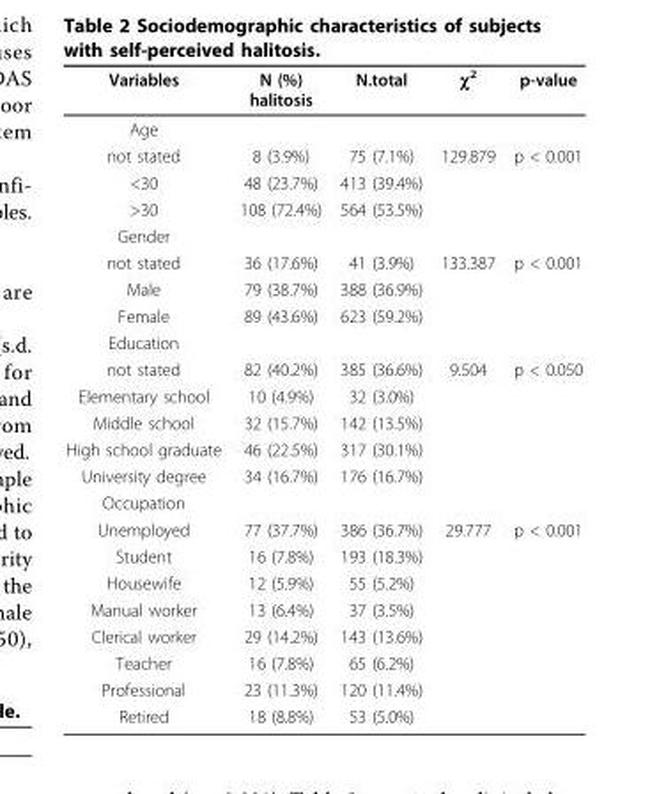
<table><thead><tr><td>Variables</td><td>N (%) halitosis</td><td>N.total</td><td>χ<sup>2</sup></td><td>p-value</td></tr></thead><tbody><tr><td colspan="5">Age</td></tr><tr><td>not stated</td><td>8 (3.9%)</td><td>75 (7.1%)</td><td>129.879</td><td>p &lt; 0.001</td></tr><tr><td>&lt;30</td><td>48 (23.7%)</td><td>413 (39.4%)</td><td></td><td></td></tr><tr><td>&gt;30</td><td>108 (72.4%)</td><td>564 (53.5%)</td><td></td><td></td></tr><tr><td colspan="5">Gender</td></tr><tr><td>not stated</td><td>36 (17.6%)</td><td>41 (3.9%)</td><td>133.387</td><td>p &lt; 0.001</td></tr><tr><td>Male</td><td>79 (38.7%)</td><td>388 (36.9%)</td><td></td><td></td></tr><tr><td>Female</td><td>89 (43.6%)</td><td>623 (59.2%)</td><td></td><td></td></tr><tr><td colspan="5">Education</td></tr><tr><td>not stated</td><td>82 (40.2%)</td><td>385 (36.6%)</td><td>9.504</td><td>p &lt; 0.050</td></tr><tr><td>Elementary school</td><td>10 (4.9%)</td><td>32 (3.0%)</td><td></td><td></td></tr><tr><td>Middle school</td><td>32 (15.7%)</td><td>142 (13.5%)</td><td></td><td></td></tr><tr><td>High school graduate</td><td>46 (22.5%)</td><td>317 (30.1%)</td><td></td><td></td></tr><tr><td>University degree</td><td>34 (16.7%)</td><td>176 (16.7%)</td><td></td><td></td></tr><tr><td colspan="5">Occupation</td></tr><tr><td>Unemployed</td><td>77 (37.7%)</td><td>386 (36.7%)</td><td>29.777</td><td>p &lt; 0.001</td></tr><tr><td>Student</td><td>16 (7.8%)</td><td>193 (18.3%)</td><td></td><td></td></tr><tr><td>Housewife</td><td>12 (5.9%)</td><td>55 (5.2%)</td><td></td><td></td></tr><tr><td>Manual worker</td><td>13 (6.4%)</td><td>37 (3.5%)</td><td></td><td></td></tr><tr><td>Clerical worker</td><td>29 (14.2%)</td><td>143 (13.6%)</td><td></td><td></td></tr><tr><td>Teacher</td><td>16 (7.8%)</td><td>65 (6.2%)</td><td></td><td></td></tr><tr><td>Professional</td><td>23 (11.3%)</td><td>120 (11.4%)</td><td></td><td></td></tr><tr><td>Retired</td><td>18 (8.8%)</td><td>53 (5.0%)</td><td></td><td></td></tr></tbody></table>